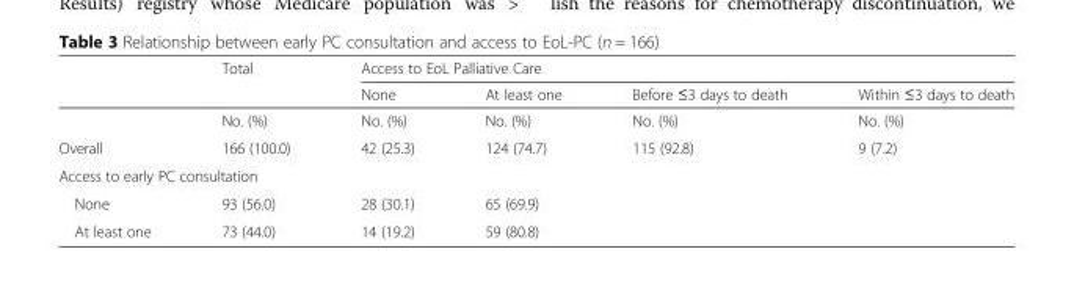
<table><thead><tr><td rowspan="2"></td><td rowspan="2">Total</td><td colspan="4">Access to EoL Palliative Care</td></tr><tr><td>None</td><td>At least one</td><td>Before ≤3 days to death</td><td>Within ≤3 days to death</td></tr></thead><tbody><tr><td></td><td>No. (%)</td><td>No. (%)</td><td>No. (%)</td><td>No. (%)</td><td>No. (%)</td></tr><tr><td>Overall</td><td>166 (100.0)</td><td>42 (25.3)</td><td>124 (74.7)</td><td>115 (92.8)</td><td>9 (7.2)</td></tr><tr><td colspan="6">Access to early PC consultation</td></tr><tr><td>None</td><td>93 (56.0)</td><td>28 (30.1)</td><td>65 (69.9)</td><td></td><td></td></tr><tr><td>At least one</td><td>73 (44.0)</td><td>14 (19.2)</td><td>59 (80.8)</td><td></td><td></td></tr></tbody></table>